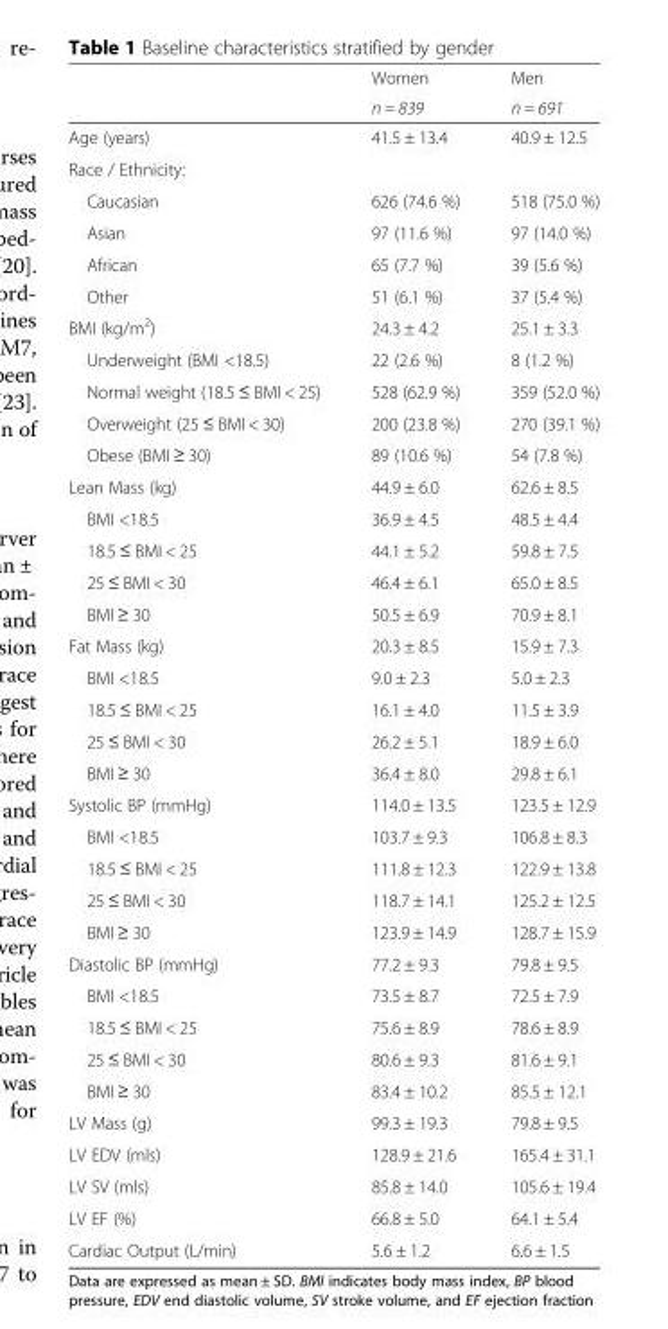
<table><thead><tr><td rowspan="2"></td><td rowspan="2">Women n = 839</td><td rowspan="2">Men n = 691</td></tr><tr></tr></thead><tbody><tr><td>Age (years)</td><td>41.5 ± 13.4</td><td>40.9 ± 12.5</td></tr><tr><td colspan="3">Race / Ethnicity:</td></tr><tr><td>Caucasian</td><td>626 (74.6 %)</td><td>518 (75.0 %)</td></tr><tr><td>Asian</td><td>97 (11.6 %)</td><td>97 (14.0 %)</td></tr><tr><td>African</td><td>65 (7.7 %)</td><td>39 (5.6 %)</td></tr><tr><td>Other</td><td>51 (6.1 %)</td><td>37 (5.4 %)</td></tr><tr><td>BMI (kg/m<sup>2</sup>)</td><td>24.3 ± 4.2</td><td>25.1 ± 3.3</td></tr><tr><td>Underweight (BMI &lt;18.5)</td><td>22 (2.6 %)</td><td>8 (1.2 %)</td></tr><tr><td>Normal weight (18.5 ≤ BMI &lt; 25)</td><td>528 (62.9 %)</td><td>359 (52.0 %)</td></tr><tr><td>Overweight (25 ≤ BMI &lt; 30)</td><td>200 (23.8 %)</td><td>270 (39.1 %)</td></tr><tr><td>Obese (BMI ≥ 30)</td><td>89 (10.6 %)</td><td>54 (7.8 %)</td></tr><tr><td>Lean Mass (kg)</td><td>44.9 ± 6.0</td><td>62.6 ± 8.5</td></tr><tr><td>BMI &lt;18.5</td><td>36.9 ± 4.5</td><td>48.5 ± 4.4</td></tr><tr><td>18.5 ≤ BMI &lt; 25</td><td>44.1 ± 5.2</td><td>59.8 ± 7.5</td></tr><tr><td>25 ≤ BMI &lt; 30</td><td>46.4 ± 6.1</td><td>65.0 ± 8.5</td></tr><tr><td>BMI ≥ 30</td><td>50.5 ± 6.9</td><td>70.9 ± 8.1</td></tr><tr><td>Fat Mass (kg)</td><td>20.3 ± 8.5</td><td>15.9 ± 7.3</td></tr><tr><td>BMI &lt;18.5</td><td>9.0 ± 2.3</td><td>5.0 ± 2.3</td></tr><tr><td>18.5 ≤ BMI &lt; 25</td><td>16.1 ± 4.0</td><td>11.5 ± 3.9</td></tr><tr><td>25 ≤ BMI &lt; 30</td><td>26.2 ± 5.1</td><td>18.9 ± 6.0</td></tr><tr><td>BMI ≥ 30</td><td>36.4 ± 8.0</td><td>29.8 ± 6.1</td></tr><tr><td>Systolic BP (mmHg)</td><td>114.0 ± 13.5</td><td>123.5 ± 12.9</td></tr><tr><td>BMI &lt;18.5</td><td>103.7 ± 9.3</td><td>106.8 ± 8.3</td></tr><tr><td>18.5 ≤ BMI &lt; 25</td><td>111.8 ± 12.3</td><td>122.9 ± 13.8</td></tr><tr><td>25 ≤ BMI &lt; 30</td><td>118.7 ± 14.1</td><td>125.2 ± 12.5</td></tr><tr><td>BMI ≥ 30</td><td>123.9 ± 14.9</td><td>128.7 ± 15.9</td></tr><tr><td>Diastolic BP (mmHg)</td><td>77.2 ± 9.3</td><td>79.8 ± 9.5</td></tr><tr><td>BMI &lt;18.5</td><td>73.5 ± 8.7</td><td>72.5 ± 7.9</td></tr><tr><td>18.5 ≤ BMI &lt; 25</td><td>75.6 ± 8.9</td><td>78.6 ± 8.9</td></tr><tr><td>25 ≤ BMI &lt; 30</td><td>80.6 ± 9.3</td><td>81.6 ± 9.1</td></tr><tr><td>BMI ≥ 30</td><td>83.4 ± 10.2</td><td>85.5 ± 12.1</td></tr><tr><td>LV Mass (g)</td><td>99.3 ± 19.3</td><td>79.8 ± 9.5</td></tr><tr><td>LV EDV (mls)</td><td>128.9 ± 21.6</td><td>165.4 ± 31.1</td></tr><tr><td>LV SV (mls)</td><td>85.8 ± 14.0</td><td>105.6 ± 19.4</td></tr><tr><td>LV EF (%)</td><td>66.8 ± 5.0</td><td>64.1 ± 5.4</td></tr><tr><td>Cardiac Output (L/min)</td><td>5.6 ± 1.2</td><td>6.6 ± 1.5</td></tr></tbody></table>